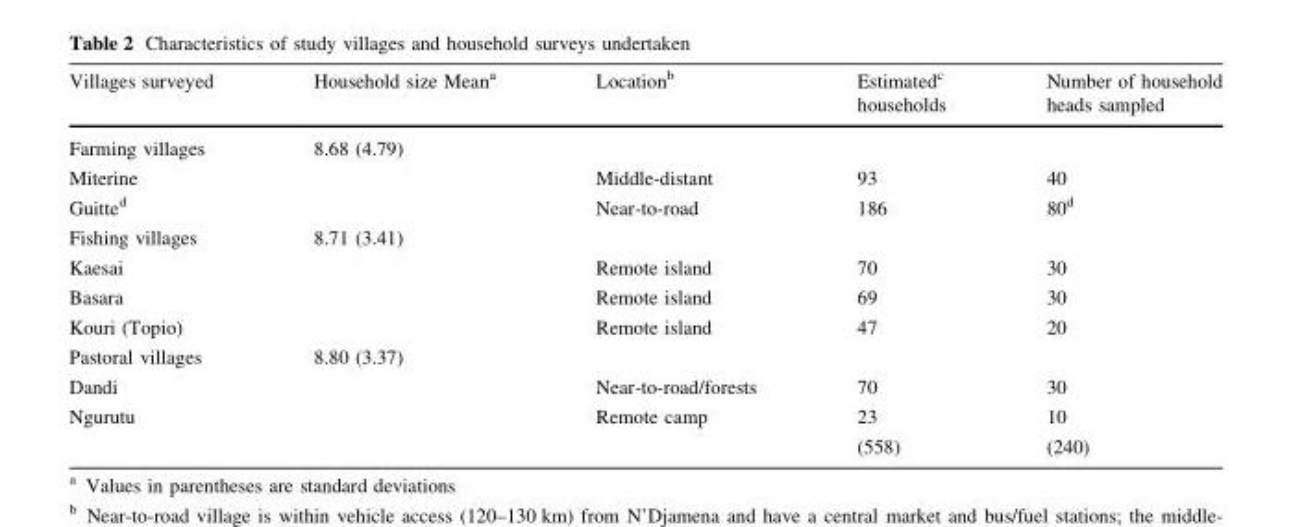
<table><thead><tr><td>Villages surveyed</td><td>Household size Mean<sup>a</sup></td><td>Location<sup>b</sup></td><td>Estimated<sup>c</sup> households</td><td>Number of household heads sampled</td></tr></thead><tbody><tr><td>Farming villages</td><td>8.68 (4.79)</td><td></td><td></td><td></td></tr><tr><td>Miterine</td><td></td><td>Middle-distant</td><td>93</td><td>40</td></tr><tr><td>Guitte<sup>d</sup></td><td></td><td>Near-to-road</td><td>186</td><td>80<sup>d</sup></td></tr><tr><td>Fishing villages</td><td>8.71 (3.41)</td><td></td><td></td><td></td></tr><tr><td>Kaesai</td><td></td><td>Remote island</td><td>70</td><td>30</td></tr><tr><td>Basara</td><td></td><td>Remote island</td><td>69</td><td>30</td></tr><tr><td>Kouri (Topio)</td><td></td><td>Remote island</td><td>47</td><td>20</td></tr><tr><td>Pastoral villages</td><td>8.80 (3.37)</td><td></td><td></td><td></td></tr><tr><td>Dandi</td><td></td><td>Near-to-road/forests</td><td>70</td><td>30</td></tr><tr><td>Ngurutu</td><td></td><td>Remote camp</td><td>23</td><td>10</td></tr><tr><td colspan="3"></td><td>(558)</td><td>(240)</td></tr></tbody></table>